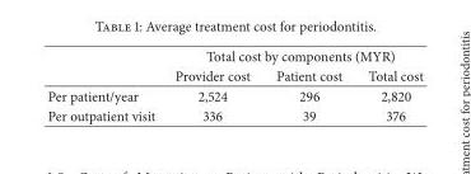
<table><thead><tr><td rowspan="2"></td><td colspan="3">Total cost by components (MYR)</td></tr><tr><td>Provider cost</td><td>Patient cost</td><td>Total cost</td></tr></thead><tbody><tr><td>Per patient/year</td><td>2,524</td><td>296</td><td>2,820</td></tr><tr><td>Per outpatient visit</td><td>336</td><td>39</td><td>376</td></tr></tbody></table>